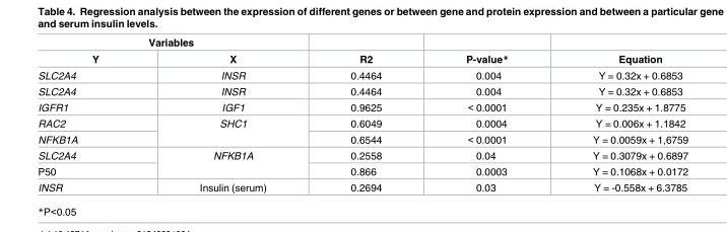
<table><thead><tr><td colspan="2">Variables</td><td rowspan="2">R2</td><td rowspan="2">P-value*</td><td rowspan="2">Equation</td></tr><tr><td>Y</td><td>X</td></tr></thead><tbody><tr><td>SLC2A4</td><td>INSR</td><td>0.4464</td><td>0.004</td><td>Y = 0.32x + 0.6853</td></tr><tr><td>SLC2A4</td><td>INSR</td><td>0.4464</td><td>0.004</td><td>Y = 0.32x + 0.6853</td></tr><tr><td>IGFR1</td><td>IGF1</td><td>0.9625</td><td>&lt; 0.0001</td><td>Y = 0.235x + 1.8775</td></tr><tr><td>RAC2</td><td rowspan="2">SHC1</td><td>0.6049</td><td>0.0004</td><td>Y = 0.006x + 1.1842</td></tr><tr><td>NFKB1A</td><td>0.6544</td><td>&lt; 0.0001</td><td>Y = 0.0059x + 1,6759</td></tr><tr><td>SLC2A4</td><td rowspan="2">NFKB1A</td><td>0.2558</td><td>0.04</td><td>Y = 0.3079x + 0.6897</td></tr><tr><td>P50</td><td>0.866</td><td>0.0003</td><td>Y = 0.1068x + 0.0172</td></tr><tr><td>INSR</td><td>Insulin (serum)</td><td>0.2694</td><td>0.03</td><td>Y = -0.558x + 6.3785</td></tr></tbody></table>